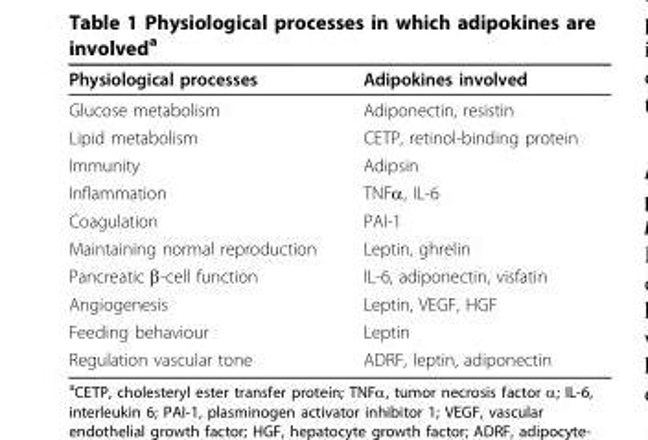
<table><thead><tr><td>Physiological processes</td><td>Adipokines involved</td></tr></thead><tbody><tr><td>Glucose metabolism</td><td>Adiponectin, resistin</td></tr><tr><td>Lipid metabolism</td><td>CETP, retinol-binding protein</td></tr><tr><td>Immunity</td><td>Adipsin</td></tr><tr><td>Inflammation</td><td>TNFα, IL-6</td></tr><tr><td>Coagulation</td><td>PAI-1</td></tr><tr><td>Maintaining normal reproduction</td><td>Leptin, ghrelin</td></tr><tr><td>Pancreatic β-cell function</td><td>IL-6, adiponectin, visfatin</td></tr><tr><td>Angiogenesis</td><td>Leptin, VEGF, HGF</td></tr><tr><td>Feeding behaviour</td><td>Leptin</td></tr><tr><td>Regulation vascular tone</td><td>ADRF, leptin, adiponectin</td></tr></tbody></table>